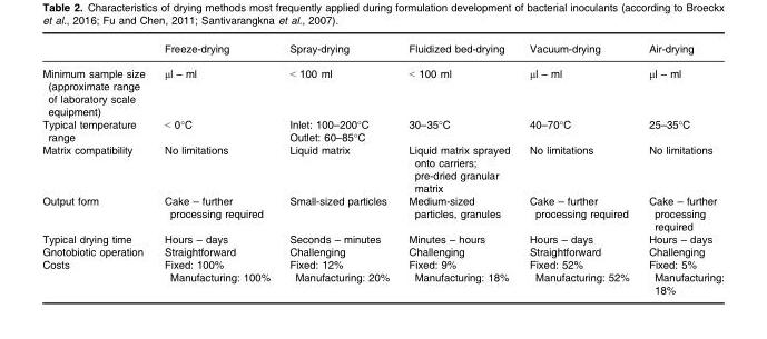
<table><thead><tr><td></td><td>Freeze-drying</td><td>Spray-drying</td><td>Fluidized bed-drying</td><td>Vacuum-drying</td><td>Air-drying</td></tr></thead><tbody><tr><td>Minimum sample size (approximate range of laboratory scale equipment)</td><td>μl – ml</td><td>&lt; 100 ml</td><td>&lt; 100 ml</td><td>μl – ml</td><td>μl – ml</td></tr><tr><td>Typical temperature range</td><td>&lt; 0°C</td><td>Inlet: 100–200°C Outlet: 60–85°C</td><td>30–35°C</td><td>40–70°C</td><td>25–35°C</td></tr><tr><td>Matrix compatibility</td><td>No limitations</td><td>Liquid matrix</td><td>Liquid matrix sprayed onto carriers; pre-dried granular matrix</td><td>No limitations</td><td>No limitations</td></tr><tr><td>Output form</td><td>Cake – further processing required</td><td>Small-sized particles</td><td>Medium-sized particles, granules</td><td>Cake – further processing required</td><td>Cake – further processing required</td></tr><tr><td>Typical drying time</td><td>Hours – days</td><td>Seconds – minutes</td><td>Minutes – hours</td><td>Hours – days</td><td>Hours – days</td></tr><tr><td>Gnotobiotic operation</td><td>Straightforward</td><td>Challenging</td><td>Challenging</td><td>Straightforward</td><td>Challenging</td></tr><tr><td>Costs</td><td>Fixed: 100% Manufacturing: 100%</td><td>Fixed: 12% Manufacturing: 20%</td><td>Fixed: 9% Manufacturing: 18%</td><td>Fixed: 52% Manufacturing: 52%</td><td>Fixed: 5% Manufacturing: 18%</td></tr></tbody></table>